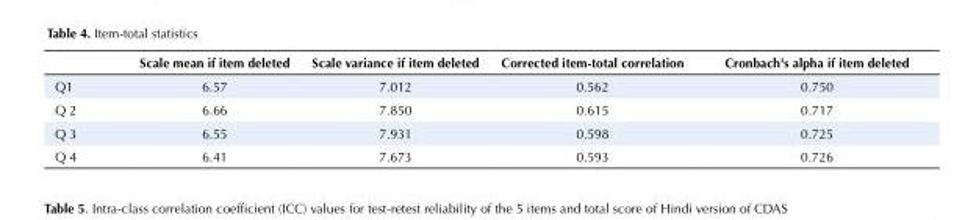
<table><thead><tr><td></td><td>Scale mean if item deleted</td><td>Scale variance if item deleted</td><td>Corrected item-total correlation</td><td>Cronbach&#x27;s alpha if item deleted</td></tr></thead><tbody><tr><td>Q1</td><td>6.57</td><td>7.012</td><td>0.562</td><td>0.750</td></tr><tr><td>Q 2</td><td>6.66</td><td>7.850</td><td>0.615</td><td>0.717</td></tr><tr><td>Q 3</td><td>6.55</td><td>7.931</td><td>0.598</td><td>0.725</td></tr><tr><td>Q 4</td><td>6.41</td><td>7.673</td><td>0.593</td><td>0.726</td></tr></tbody></table>